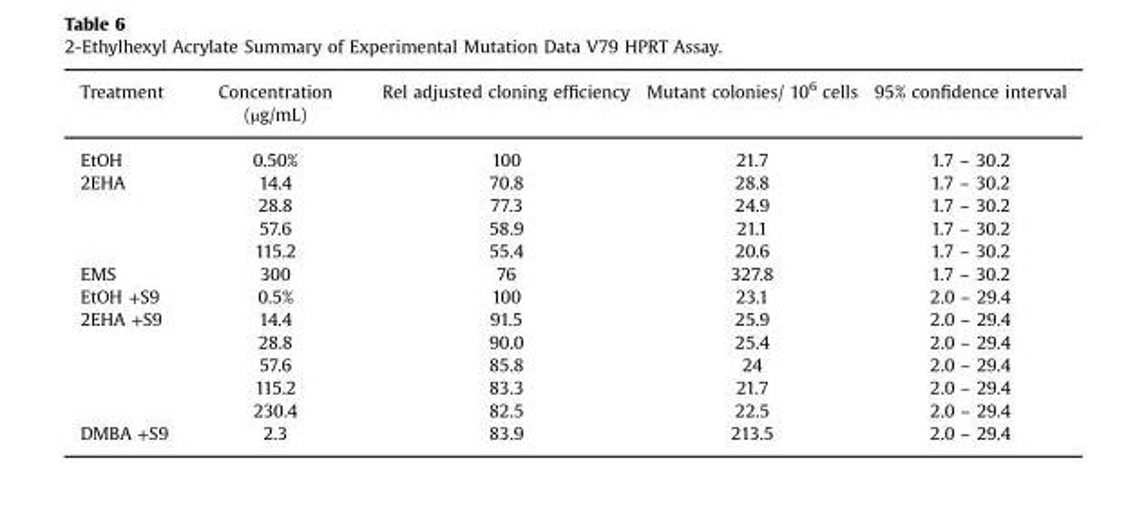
<table><thead><tr><td>Treatment</td><td>Concentration (µg/mL)</td><td>Rel adjusted cloning efficiency</td><td>Mutant colonies/ 10<sup>6</sup> cells</td><td>95% confidence interval</td></tr></thead><tbody><tr><td>EtOH</td><td>0.50%</td><td>100</td><td>21.7</td><td>1.7 – 30.2</td></tr><tr><td rowspan="4">2EHA</td><td>14.4</td><td>70.8</td><td>28.8</td><td>1.7 – 30.2</td></tr><tr><td>28.8</td><td>77.3</td><td>24.9</td><td>1.7 – 30.2</td></tr><tr><td>57.6</td><td>58.9</td><td>21.1</td><td>1.7 – 30.2</td></tr><tr><td>115.2</td><td>55.4</td><td>20.6</td><td>1.7 – 30.2</td></tr><tr><td>EMS</td><td>300</td><td>76</td><td>327.8</td><td>1.7 – 30.2</td></tr><tr><td>EtOH +S9</td><td>0.5%</td><td>100</td><td>23.1</td><td>2.0 – 29.4</td></tr><tr><td rowspan="5">2EHA +S9</td><td>14.4</td><td>91.5</td><td>25.9</td><td>2.0 – 29.4</td></tr><tr><td>28.8</td><td>90.0</td><td>25.4</td><td>2.0 – 29.4</td></tr><tr><td>57.6</td><td>85.8</td><td>24</td><td>2.0 – 29.4</td></tr><tr><td>115.2</td><td>83.3</td><td>21.7</td><td>2.0 – 29.4</td></tr><tr><td>230.4</td><td>82.5</td><td>22.5</td><td>2.0 – 29.4</td></tr><tr><td>DMBA +S9</td><td>2.3</td><td>83.9</td><td>213.5</td><td>2.0 – 29.4</td></tr></tbody></table>